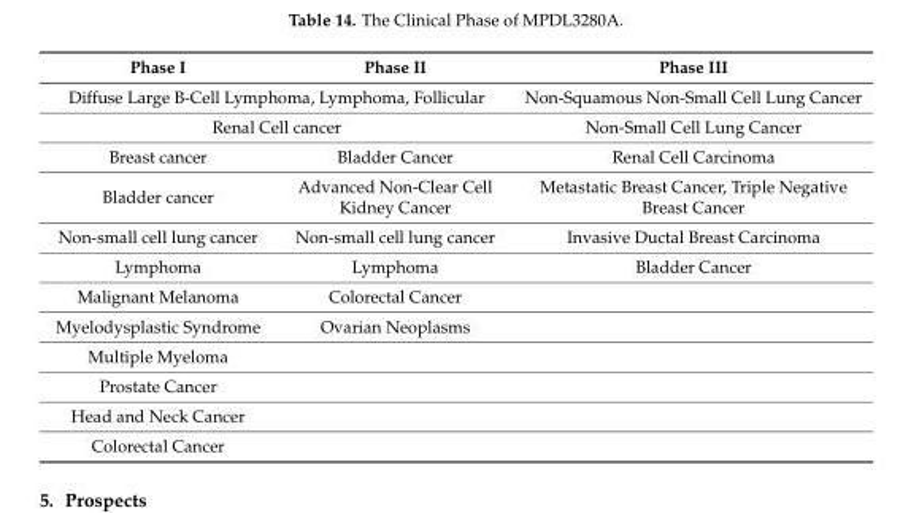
<table><thead><tr><td>Phase I</td><td>Phase II</td><td>Phase III</td></tr></thead><tbody><tr><td colspan="2">Diffuse Large B-Cell Lymphoma, Lymphoma, Follicular</td><td>Non-Squamous Non-Small Cell Lung Cancer</td></tr><tr><td colspan="2">Renal Cell cancer</td><td>Non-Small Cell Lung Cancer</td></tr><tr><td>Breast cancer</td><td>Bladder Cancer</td><td>Renal Cell Carcinoma</td></tr><tr><td>Bladder cancer</td><td>Advanced Non-Clear Cell Kidney Cancer</td><td>Metastatic Breast Cancer, Triple Negative Breast Cancer</td></tr><tr><td>Non-small cell lung cancer</td><td>Non-small cell lung cancer</td><td>Invasive Ductal Breast Carcinoma</td></tr><tr><td>Lymphoma</td><td>Lymphoma</td><td>Bladder Cancer</td></tr><tr><td>Malignant Melanoma</td><td>Colorectal Cancer</td><td></td></tr><tr><td>Myelodysplastic Syndrome</td><td>Ovarian Neoplasms</td><td></td></tr><tr><td colspan="3">Multiple Myeloma</td></tr><tr><td colspan="3">Prostate Cancer</td></tr><tr><td colspan="3">Head and Neck Cancer</td></tr><tr><td>Colorectal Cancer</td><td></td><td></td></tr></tbody></table>